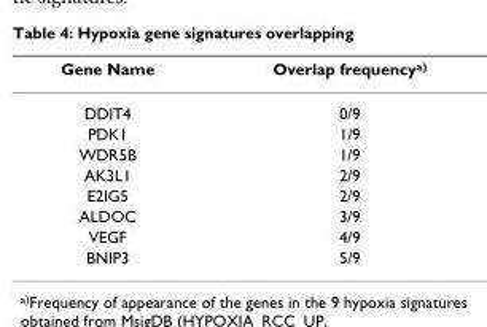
<table><thead><tr><td>Gene Name</td><td>Overlap frequency<sup>a)</sup></td></tr></thead><tbody><tr><td>DDIT4</td><td>0/9</td></tr><tr><td>PDK1</td><td>1/9</td></tr><tr><td>WDR5B</td><td>1/9</td></tr><tr><td>AK3L1</td><td>2/9</td></tr><tr><td>E2IG5</td><td>2/9</td></tr><tr><td>ALDOC</td><td>3/9</td></tr><tr><td>VEGF</td><td>4/9</td></tr><tr><td>BNIP3</td><td>5/9</td></tr></tbody></table>